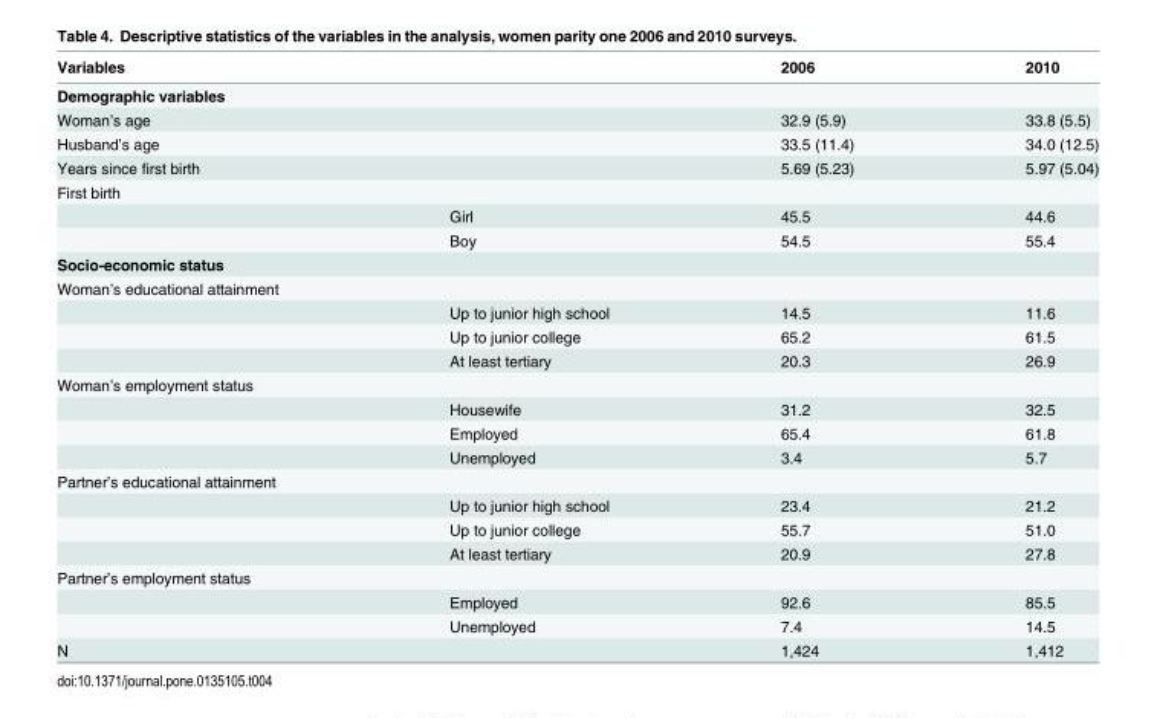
<table><thead><tr><td>Variables</td><td></td><td>2006</td><td>2010</td></tr></thead><tbody><tr><td colspan="4">Demographic variables</td></tr><tr><td>Woman’s age</td><td></td><td>32.9 (5.9)</td><td>33.8 (5.5)</td></tr><tr><td>Husband’s age</td><td></td><td>33.5 (11.4)</td><td>34.0 (12.5)</td></tr><tr><td>Years since first birth</td><td></td><td>5.69 (5.23)</td><td>5.97 (5.04)</td></tr><tr><td colspan="4">First birth</td></tr><tr><td></td><td>Girl</td><td>45.5</td><td>44.6</td></tr><tr><td></td><td>Boy</td><td>54.5</td><td>55.4</td></tr><tr><td colspan="4">Socio-economic status</td></tr><tr><td colspan="4">Woman’s educational attainment</td></tr><tr><td></td><td>Up to junior high school</td><td>14.5</td><td>11.6</td></tr><tr><td></td><td>Up to junior college</td><td>65.2</td><td>61.5</td></tr><tr><td></td><td>At least tertiary</td><td>20.3</td><td>26.9</td></tr><tr><td colspan="4">Woman’s employment status</td></tr><tr><td></td><td>Housewife</td><td>31.2</td><td>32.5</td></tr><tr><td></td><td>Employed</td><td>65.4</td><td>61.8</td></tr><tr><td></td><td>Unemployed</td><td>3.4</td><td>5.7</td></tr><tr><td colspan="4">Partner’s educational attainment</td></tr><tr><td></td><td>Up to junior high school</td><td>23.4</td><td>21.2</td></tr><tr><td></td><td>Up to junior college</td><td>55.7</td><td>51.0</td></tr><tr><td></td><td>At least tertiary</td><td>20.9</td><td>27.8</td></tr><tr><td colspan="4">Partner’s employment status</td></tr><tr><td></td><td>Employed</td><td>92.6</td><td>85.5</td></tr><tr><td></td><td>Unemployed</td><td>7.4</td><td>14.5</td></tr><tr><td>N</td><td></td><td>1,424</td><td>1,412</td></tr></tbody></table>